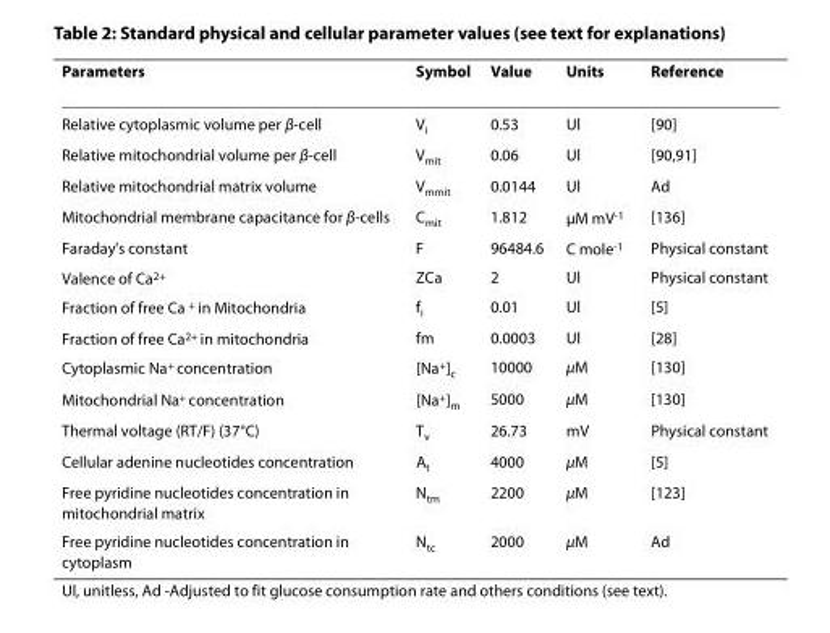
<table><thead><tr><td>Parameters</td><td>Symbol</td><td>Value</td><td>Units</td><td>Reference</td></tr></thead><tbody><tr><td>Relative cytoplasmic volume per β-cell</td><td>V<sub>i</sub></td><td>0.53</td><td>Ul</td><td>[90]</td></tr><tr><td>Relative mitochondrial volume per β-cell</td><td>V<sub>mit</sub></td><td>0.06</td><td>Ul</td><td>[90,91]</td></tr><tr><td>Relative mitochondrial matrix volume</td><td>V<sub>mmit</sub></td><td>0.0144</td><td>Ul</td><td>Ad</td></tr><tr><td>Mitochondrial membrane capacitance for β-cells</td><td>C<sub>mit</sub></td><td>1.812</td><td>μM mV<sup>-1</sup></td><td>[136]</td></tr><tr><td>Faraday&#x27;s constant</td><td>F</td><td>96484.6</td><td>C mole<sup>-1</sup></td><td>Physical constant</td></tr><tr><td>Valence of Ca<sup>2+</sup></td><td>ZCa</td><td>2</td><td>Ul</td><td>Physical constant</td></tr><tr><td>Fraction of free Ca <sup>+</sup> in Mitochondria</td><td>f<sub>i</sub></td><td>0.01</td><td>Ul</td><td>[5]</td></tr><tr><td>Fraction of free Ca<sup>2+</sup> in mitochondria</td><td>fm</td><td>0.0003</td><td>Ul</td><td>[28]</td></tr><tr><td>Cytoplasmic Na<sup>+</sup> concentration</td><td>[Na<sup>+</sup>]<sub>c</sub></td><td>10000</td><td>μM</td><td>[130]</td></tr><tr><td>Mitochondrial Na<sup>+</sup> concentration</td><td>[Na<sup>+</sup>]<sub>m</sub></td><td>5000</td><td>μM</td><td>[130]</td></tr><tr><td>Thermal voltage (RT/F) (37°C)</td><td>T<sub>v</sub></td><td>26.73</td><td>mV</td><td>Physical constant</td></tr><tr><td>Cellular adenine nucleotides concentration</td><td>A<sub>t</sub></td><td>4000</td><td>μM</td><td>[5]</td></tr><tr><td>Free pyridine nucleotides concentration in mitochondrial matrix</td><td>N<sub>tm</sub></td><td>2200</td><td>μM</td><td>[123]</td></tr><tr><td>Free pyridine nucleotides concentration in cytoplasm</td><td>N<sub>tc</sub></td><td>2000</td><td>μM</td><td>Ad</td></tr></tbody></table>